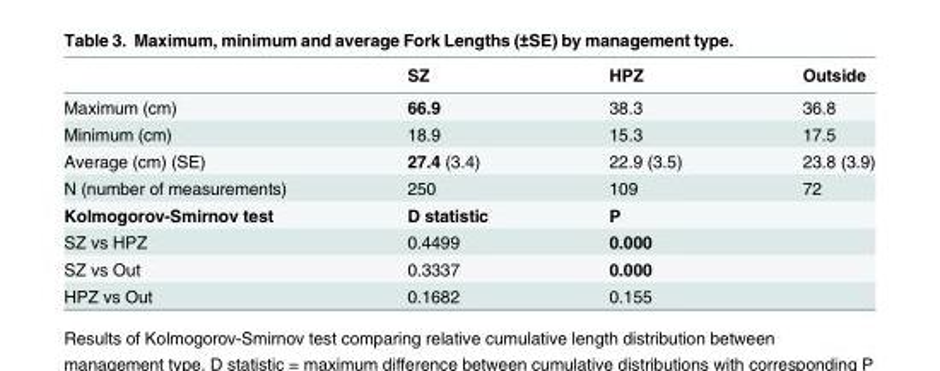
<table><thead><tr><td></td><td>SZ</td><td>HPZ</td><td>Outside</td></tr></thead><tbody><tr><td>Maximum (cm)</td><td>66.9</td><td>38.3</td><td>36.8</td></tr><tr><td>Minimum (cm)</td><td>18.9</td><td>15.3</td><td>17.5</td></tr><tr><td>Average (cm) (SE)</td><td>27.4 (3.4)</td><td>22.9 (3.5)</td><td>23.8 (3.9)</td></tr><tr><td>N (number of measurements)</td><td>250</td><td>109</td><td>72</td></tr><tr><td>Kolmogorov-Smirnov test</td><td>D statistic</td><td>P</td><td></td></tr><tr><td>SZ vs HPZ</td><td>0.4499</td><td>0.000</td><td></td></tr><tr><td>SZ vs Out</td><td>0.3337</td><td>0.000</td><td></td></tr><tr><td>HPZ vs Out</td><td>0.1682</td><td>0.155</td><td></td></tr></tbody></table>